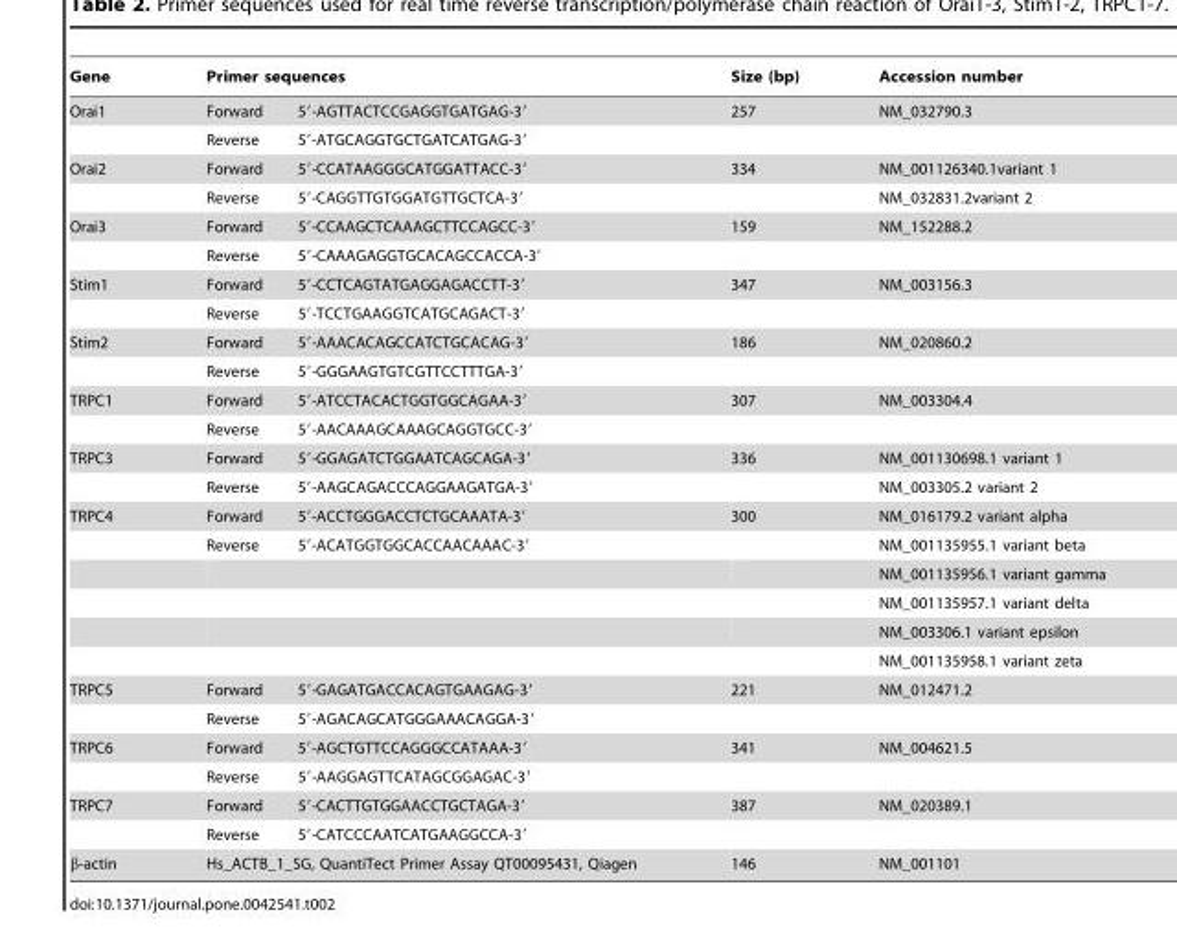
<table><thead><tr><td rowspan="2">Gene Orai1</td><td colspan="2">Primer sequences</td><td rowspan="2">Size (bp) 257</td><td rowspan="2">Accession number NM_032790.3</td></tr><tr><td>Forward</td><td>5′-AGTTACTCCGAGGTGATGAG-3′</td></tr></thead><tbody><tr><td></td><td>Reverse</td><td>5′-ATGCAGGTGCTGATCATGAG-3′</td><td></td><td></td></tr><tr><td rowspan="2">Orai2</td><td>Forward</td><td>5′-CCATAAGGGCATGGATTACC-3′</td><td>334</td><td>NM_001126340.1variant 1</td></tr><tr><td>Reverse</td><td>5′-CAGGTTGTGGATGTTGCTCA-3′</td><td></td><td>NM_032831.2variant 2</td></tr><tr><td rowspan="2">Orai3</td><td>Forward</td><td>5′-CCAAGCTCAAAGCTTCCAGCC-3′</td><td>159</td><td>NM_152288.2</td></tr><tr><td>Reverse</td><td>5′-CAAAGAGGTGCACAGCCACCA-3′</td><td></td><td></td></tr><tr><td rowspan="2">Stim1</td><td>Forward</td><td>5′-CCTCAGTATGAGGAGACCTT-3′</td><td>347</td><td>NM_003156.3</td></tr><tr><td>Reverse</td><td>5′-TCCTGAAGGTCATGCAGACT-3′</td><td></td><td></td></tr><tr><td rowspan="2">Stim2</td><td>Forward</td><td>5′-AAACACAGCCATCTGCACAG-3′</td><td>186</td><td>NM_020860.2</td></tr><tr><td>Reverse</td><td>5′-GGGAAGTGTCGTTCCTTTGA-3′</td><td></td><td></td></tr><tr><td rowspan="2">TRPC1</td><td>Forward</td><td>5′-ATCCTACACTGGTGGCAGAA-3′</td><td>307</td><td>NM_003304.4</td></tr><tr><td>Reverse</td><td>5′-AACAAAGCAAAGCAGGTGCC-3′</td><td></td><td></td></tr><tr><td rowspan="2">TRPC3</td><td>Forward</td><td>5′-GGAGATCTGGAATCAGCAGA-3′</td><td>336</td><td>NM_001130698.1 variant 1</td></tr><tr><td>Reverse</td><td>5′-AAGCAGACCCAGGAAGATGA-3′</td><td></td><td>NM_003305.2 variant 2</td></tr><tr><td rowspan="6">TRPC4</td><td>Forward</td><td>5′-ACCTGGGACCTCTGCAAATA-3′</td><td>300</td><td>NM_016179.2 variant alpha</td></tr><tr><td>Reverse</td><td>5′-ACATGGTGGCACCAACAAAC-3′</td><td></td><td>NM_001135955.1 variant beta</td></tr><tr><td></td><td></td><td></td><td>NM_001135956.1 variant gamma</td></tr><tr><td></td><td></td><td></td><td>NM_001135957.1 variant delta</td></tr><tr><td></td><td></td><td></td><td>NM_003306.1 variant epsilon</td></tr><tr><td></td><td></td><td></td><td>NM_001135958.1 variant zeta</td></tr><tr><td rowspan="2">TRPC5</td><td>Forward</td><td>5′-GAGATGACCACAGTGAAGAG-3′</td><td>221</td><td>NM_012471.2</td></tr><tr><td>Reverse</td><td>5′-AGACAGCATGGGAAACAGGA-3′</td><td></td><td></td></tr><tr><td rowspan="2">TRPC6</td><td>Forward</td><td>5′-AGCTGTTCCAGGGCCATAAA-3′</td><td>341</td><td>NM_004621.5</td></tr><tr><td>Reverse</td><td>5′-AAGGAGTTCATAGCGGAGAC-3′</td><td></td><td></td></tr><tr><td rowspan="2">TRPC7</td><td>Forward</td><td>5′-CACTTGTGGAACCTGCTAGA-3′</td><td>387</td><td>NM_020389.1</td></tr><tr><td>Reverse</td><td>5′-CATCCCAATCATGAAGGCCA-3′</td><td></td><td></td></tr><tr><td>β-actin</td><td colspan="2">Hs_ACTB_1_SG, QuantiTect Primer Assay QT00095431, Qiagen</td><td>146</td><td>NM_001101</td></tr></tbody></table>